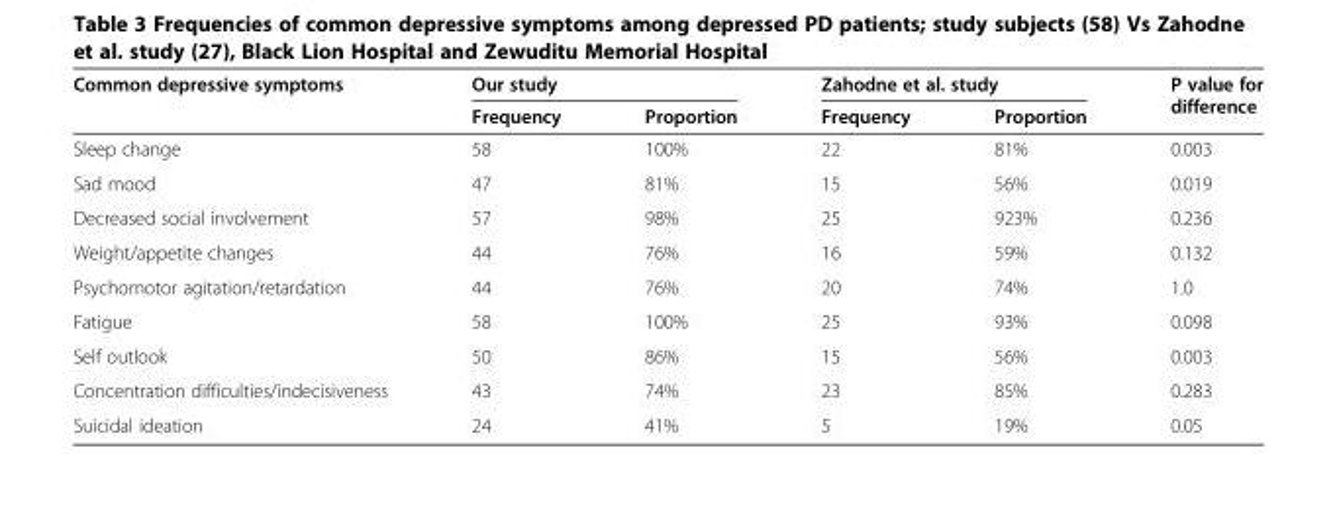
<table><thead><tr><td rowspan="2">Common depressive symptoms</td><td colspan="2">Our study</td><td colspan="2">Zahodne et al. study</td><td rowspan="2">P value for difference</td></tr><tr><td>Frequency</td><td>Proportion</td><td>Frequency</td><td>Proportion</td></tr></thead><tbody><tr><td>Sleep change</td><td>58</td><td>100%</td><td>22</td><td>81%</td><td>0.003</td></tr><tr><td>Sad mood</td><td>47</td><td>81%</td><td>15</td><td>56%</td><td>0.019</td></tr><tr><td>Decreased social involvement</td><td>57</td><td>98%</td><td>25</td><td>923%</td><td>0.236</td></tr><tr><td>Weight/appetite changes</td><td>44</td><td>76%</td><td>16</td><td>59%</td><td>0.132</td></tr><tr><td>Psychomotor agitation/retardation</td><td>44</td><td>76%</td><td>20</td><td>74%</td><td>1.0</td></tr><tr><td>Fatigue</td><td>58</td><td>100%</td><td>25</td><td>93%</td><td>0.098</td></tr><tr><td>Self outlook</td><td>50</td><td>86%</td><td>15</td><td>56%</td><td>0.003</td></tr><tr><td>Concentration difficulties/indecisiveness</td><td>43</td><td>74%</td><td>23</td><td>85%</td><td>0.283</td></tr><tr><td>Suicidal ideation</td><td>24</td><td>41%</td><td>5</td><td>19%</td><td>0.05</td></tr></tbody></table>